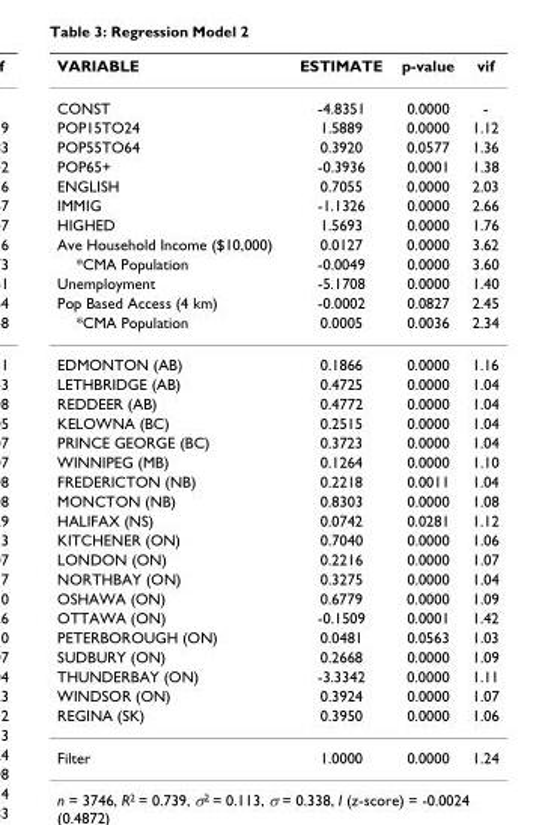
<table><thead><tr><td>VARIABLE</td><td>ESTIMATE</td><td>p-value</td><td>vif</td></tr></thead><tbody><tr><td>CONST</td><td>-4.8351</td><td>0.0000</td><td>-</td></tr><tr><td>POP15TO24</td><td>1.5889</td><td>0.0000</td><td>1.12</td></tr><tr><td>POP55TO64</td><td>0.3920</td><td>0.0577</td><td>1.36</td></tr><tr><td>POP65+</td><td>-0.3936</td><td>0.0001</td><td>1.38</td></tr><tr><td>ENGLISH</td><td>0.7055</td><td>0.0000</td><td>2.03</td></tr><tr><td>IMMIG</td><td>-1.1326</td><td>0.0000</td><td>2.66</td></tr><tr><td>HIGHED</td><td>1.5693</td><td>0.0000</td><td>1.76</td></tr><tr><td>Ave Household Income ($10,000)</td><td>0.0127</td><td>0.0000</td><td>3.62</td></tr><tr><td>*CMA Population</td><td>-0.0049</td><td>0.0000</td><td>3.60</td></tr><tr><td>Unemployment</td><td>-5.1708</td><td>0.0000</td><td>1.40</td></tr><tr><td>Pop Based Access (4 km)</td><td>-0.0002</td><td>0.0827</td><td>2.45</td></tr><tr><td>*CMA Population</td><td>0.0005</td><td>0.0036</td><td>2.34</td></tr><tr><td>EDMONTON (AB)</td><td>0.1866</td><td>0.0000</td><td>1.16</td></tr><tr><td>LETHBRIDGE (AB)</td><td>0.4725</td><td>0.0000</td><td>1.04</td></tr><tr><td>REDDEER (AB)</td><td>0.4772</td><td>0.0000</td><td>1.04</td></tr><tr><td>KELOWNA (BC)</td><td>0.2515</td><td>0.0000</td><td>1.04</td></tr><tr><td>PRINCE GEORGE (BC)</td><td>0.3723</td><td>0.0000</td><td>1.04</td></tr><tr><td>WINNIPEG (MB)</td><td>0.1264</td><td>0.0000</td><td>1.10</td></tr><tr><td>FREDERICTON (NB)</td><td>0.2218</td><td>0.0011</td><td>1.04</td></tr><tr><td>MONCTON (NB)</td><td>0.8303</td><td>0.0000</td><td>1.08</td></tr><tr><td>HALIFAX (NS)</td><td>0.0742</td><td>0.0281</td><td>1.12</td></tr><tr><td>KITCHENER (ON)</td><td>0.7040</td><td>0.0000</td><td>1.06</td></tr><tr><td>LONDON (ON)</td><td>0.2216</td><td>0.0000</td><td>1.07</td></tr><tr><td>NORTHBAY (ON)</td><td>0.3275</td><td>0.0000</td><td>1.04</td></tr><tr><td>OSHAWA (ON)</td><td>0.6779</td><td>0.0000</td><td>1.09</td></tr><tr><td>OTTAWA (ON)</td><td>-0.1509</td><td>0.0001</td><td>1.42</td></tr><tr><td>PETERBOROUGH (ON)</td><td>0.0481</td><td>0.0563</td><td>1.03</td></tr><tr><td>SUDBURY (ON)</td><td>0.2668</td><td>0.0000</td><td>1.09</td></tr><tr><td>THUNDERBAY (ON)</td><td>-3.3342</td><td>0.0000</td><td>1.11</td></tr><tr><td>WINDSOR (ON)</td><td>0.3924</td><td>0.0000</td><td>1.07</td></tr><tr><td>REGINA (SK)</td><td>0.3950</td><td>0.0000</td><td>1.06</td></tr><tr><td>Filter</td><td>1.0000</td><td>0.0000</td><td>1.24</td></tr></tbody></table>